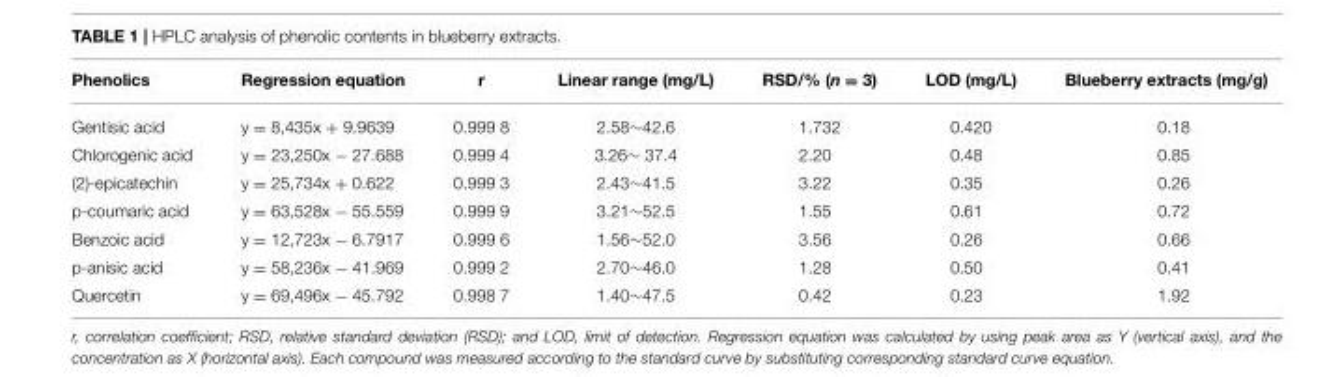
<table><thead><tr><td>Phenolics</td><td>Regression equation</td><td>r</td><td>Linear range (mg/L)</td><td>RSD/% (n = 3)</td><td>LOD (mg/L)</td><td>Blueberry extracts (mg/g)</td></tr></thead><tbody><tr><td>Gentisic acid</td><td>y = 8,435x + 9.9639</td><td>0.999 8</td><td>2.58∼42.6</td><td>1.732</td><td>0.420</td><td>0.18</td></tr><tr><td>Chlorogenic acid</td><td>y = 23,250x − 27.688</td><td>0.999 4</td><td>3.26∼ 37.4</td><td>2.20</td><td>0.48</td><td>0.85</td></tr><tr><td>(2)-epicatechin</td><td>y = 25,734x + 0.622</td><td>0.999 3</td><td>2.43∼41.5</td><td>3.22</td><td>0.35</td><td>0.26</td></tr><tr><td>p-coumaric acid</td><td>y = 63,528x − 55.559</td><td>0.999 9</td><td>3.21∼52.5</td><td>1.55</td><td>0.61</td><td>0.72</td></tr><tr><td>Benzoic acid</td><td>y = 12,723x − 6.7917</td><td>0.999 6</td><td>1.56∼52.0</td><td>3.56</td><td>0.26</td><td>0.66</td></tr><tr><td>p-anisic acid</td><td>y = 58,236x − 41.969</td><td>0.999 2</td><td>2.70∼46.0</td><td>1.28</td><td>0.50</td><td>0.41</td></tr><tr><td>Quercetin</td><td>y = 69,496x − 45.792</td><td>0.998 7</td><td>1.40∼47.5</td><td>0.42</td><td>0.23</td><td>1.92</td></tr></tbody></table>